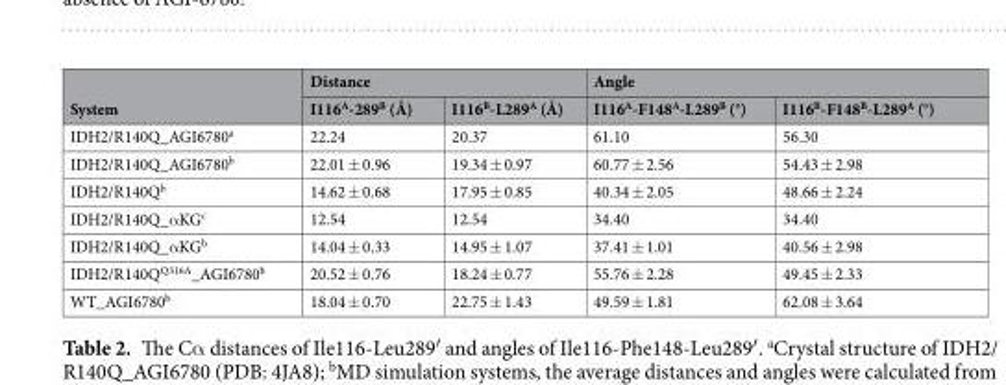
<table><thead><tr><td rowspan="2">System</td><td colspan="2">Distance</td><td colspan="2">Angle</td></tr><tr><td>I116<sup>A</sup>-289<sup>B</sup> (Å)</td><td>I116<sup>B</sup>-L289<sup>A</sup> (Å)</td><td>I116<sup>A</sup>-F148<sup>A</sup>-L289<sup>B</sup> (°)</td><td>I116<sup>B</sup>-F148<sup>B</sup>-L289<sup>A</sup> (°)</td></tr></thead><tbody><tr><td>IDH2/R140Q_AGI6780<sup>a</sup></td><td>22.24</td><td>20.37</td><td>61.10</td><td>56.30</td></tr><tr><td>IDH2/R140Q_AGI6780<sup>b</sup></td><td>22.01 ± 0.96</td><td>19.34 ± 0.97</td><td>60.77 ± 2.56</td><td>54.43 ± 2.98</td></tr><tr><td>IDH2/R140Q<sup>b</sup></td><td>14.62 ± 0.68</td><td>17.95 ± 0.85</td><td>40.34 ± 2.05</td><td>48.66 ± 2.24</td></tr><tr><td>IDH2/R140Q_αKG<sup>c</sup></td><td>12.54</td><td>12.54</td><td>34.40</td><td>34.40</td></tr><tr><td>IDH2/R140Q_αKG<sup>b</sup></td><td>14.04 ± 0.33</td><td>14.95 ± 1.07</td><td>37.41 ± 1.01</td><td>40.56 ± 2.98</td></tr><tr><td>IDH2/R140Q<sup>Q316A</sup>_AGI6780<sup>b</sup></td><td>20.52 ± 0.76</td><td>18.24 ± 0.77</td><td>55.76 ± 2.28</td><td>49.45 ± 2.33</td></tr><tr><td>WT_AGI6780<sup>b</sup></td><td>18.04 ± 0.70</td><td>22.75 ± 1.43</td><td>49.59 ± 1.81</td><td>62.08 ± 3.64</td></tr></tbody></table>